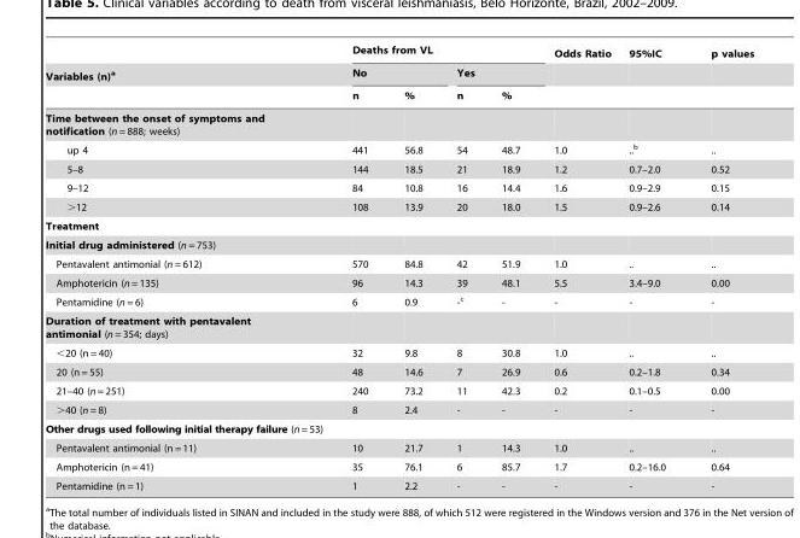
<table><thead><tr><td rowspan="3">Variables (n)<sup>a</sup></td><td colspan="4">Deaths from VL</td><td rowspan="3">Odds Ratio</td><td rowspan="3">95%IC</td><td rowspan="3">p values</td></tr><tr><td colspan="2">No</td><td colspan="2">Yes</td></tr><tr><td>n</td><td>%</td><td>n</td><td>%</td></tr></thead><tbody><tr><td colspan="8">Time between the onset of symptoms and notification (n = 888; weeks)</td></tr><tr><td>up 4</td><td>441</td><td>56.8</td><td>54</td><td>48.7</td><td>1.0</td><td>..<sup>b</sup></td><td>..</td></tr><tr><td>5–8</td><td>144</td><td>18.5</td><td>21</td><td>18.9</td><td>1.2</td><td>0.7–2.0</td><td>0.52</td></tr><tr><td>9–12</td><td>84</td><td>10.8</td><td>16</td><td>14.4</td><td>1.6</td><td>0.9–2.9</td><td>0.15</td></tr><tr><td>&gt;12</td><td>108</td><td>13.9</td><td>20</td><td>18.0</td><td>1.5</td><td>0.9–2.6</td><td>0.14</td></tr><tr><td colspan="8">Treatment</td></tr><tr><td colspan="8">Initial drug administered (n = 753)</td></tr><tr><td>Pentavalent antimonial (n = 612)</td><td>570</td><td>84.8</td><td>42</td><td>51.9</td><td>1.0</td><td>..</td><td>..</td></tr><tr><td>Amphotericin (n = 135)</td><td>96</td><td>14.3</td><td>39</td><td>48.1</td><td>5.5</td><td>3.4–9.0</td><td>0.00</td></tr><tr><td>Pentamidine (n = 6)</td><td>6</td><td>0.9</td><td>-c</td><td>-</td><td>-</td><td>-</td><td>-</td></tr><tr><td colspan="8">Duration of treatment with pentavalent antimonial (n = 354; days)</td></tr><tr><td>&lt;20 (n = 40)</td><td>32</td><td>9.8</td><td>8</td><td>30.8</td><td>1.0</td><td>..</td><td>..</td></tr><tr><td>20 (n = 55)</td><td>48</td><td>14.6</td><td>7</td><td>26.9</td><td>0.6</td><td>0.2–1.8</td><td>0.34</td></tr><tr><td>21–40 (n = 251)</td><td>240</td><td>73.2</td><td>11</td><td>42.3</td><td>0.2</td><td>0.1–0.5</td><td>0.00</td></tr><tr><td>&gt;40 (n = 8)</td><td>8</td><td>2.4</td><td>-</td><td>-</td><td>-</td><td>-</td><td>-</td></tr><tr><td colspan="8">Other drugs used following initial therapy failure (n = 53)</td></tr><tr><td>Pentavalent antimonial (n = 11)</td><td>10</td><td>21.7</td><td>1</td><td>14.3</td><td>1.0</td><td>..</td><td>..</td></tr><tr><td>Amphotericin (n = 41)</td><td>35</td><td>76.1</td><td>6</td><td>85.7</td><td>1.7</td><td>0.2–16.0</td><td>0.64</td></tr><tr><td>Pentamidine (n = 1)</td><td>1</td><td>2.2</td><td>-</td><td>-</td><td>-</td><td>-</td><td>-</td></tr></tbody></table>